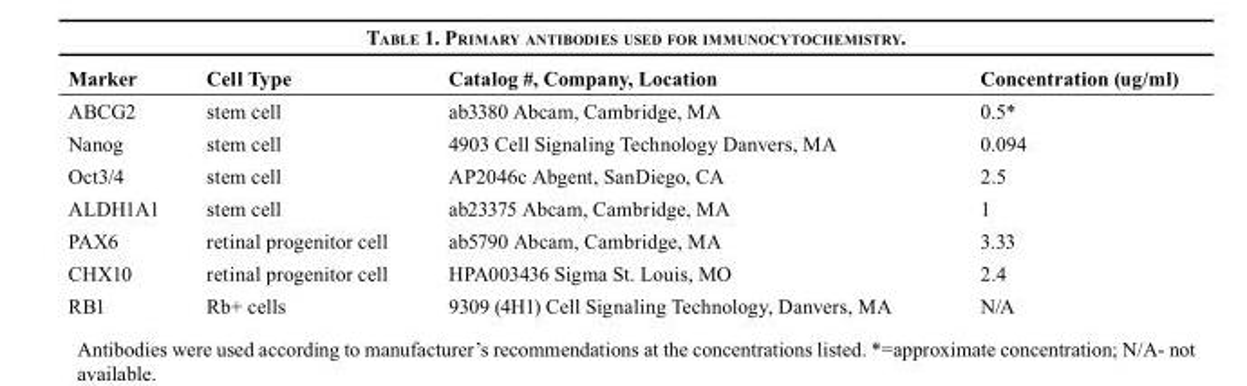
<table><thead><tr><td>Marker</td><td>Cell Type</td><td>Catalog #, Company, Location</td><td>Concentration (ug/ml)</td></tr></thead><tbody><tr><td>ABCG2</td><td>stem cell</td><td>ab3380 Abcam, Cambridge, MA</td><td>0.5*</td></tr><tr><td>Nanog</td><td>stem cell</td><td>4903 Cell Signaling Technology Danvers, MA</td><td>0.094</td></tr><tr><td>Oct3/4</td><td>stem cell</td><td>AP2046c Abgent, SanDiego, CA</td><td>2.5</td></tr><tr><td>ALDH1A1</td><td>stem cell</td><td>ab23375 Abcam, Cambridge, MA</td><td>1</td></tr><tr><td>PAX6</td><td>retinal progenitor cell</td><td>ab5790 Abcam, Cambridge, MA</td><td>3.33</td></tr><tr><td>CHX10</td><td>retinal progenitor cell</td><td>HPA003436 Sigma St. Louis, MO</td><td>2.4</td></tr><tr><td>RB1</td><td>Rb+ cells</td><td>9309 (4H1) Cell Signaling Technology, Danvers, MA</td><td>N/A</td></tr></tbody></table>